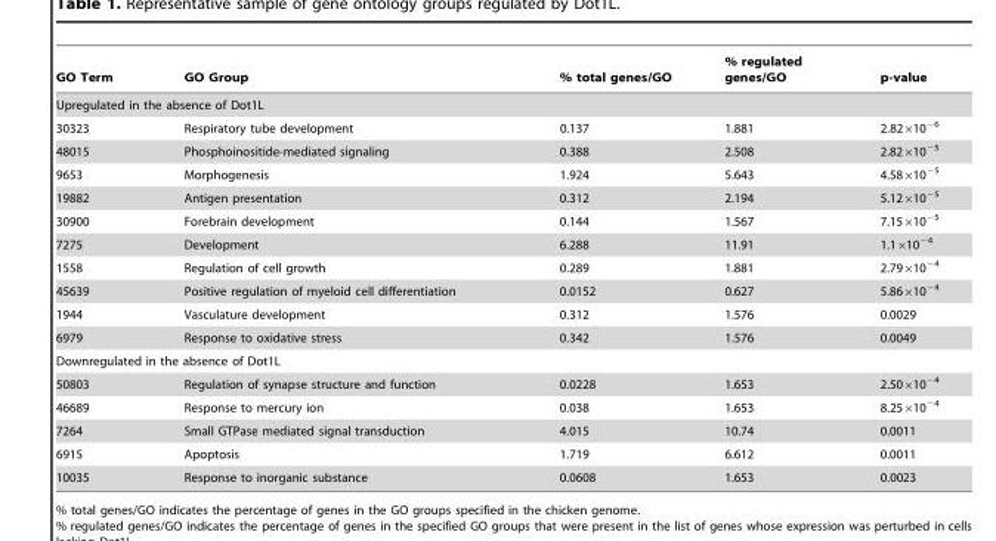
<table><thead><tr><td>GO Term</td><td>GO Group</td><td>% total genes/GO</td><td>% regulated genes/GO</td><td>p-value</td></tr></thead><tbody><tr><td colspan="5">Upregulated in the absence of Dot1L</td></tr><tr><td>30323</td><td>Respiratory tube development</td><td>0.137</td><td>1.881</td><td>2.82×10<sup>−6</sup></td></tr><tr><td>48015</td><td>Phosphoinositide-mediated signaling</td><td>0.388</td><td>2.508</td><td>2.82×10<sup>−5</sup></td></tr><tr><td>9653</td><td>Morphogenesis</td><td>1.924</td><td>5.643</td><td>4.58×10<sup>−5</sup></td></tr><tr><td>19882</td><td>Antigen presentation</td><td>0.312</td><td>2.194</td><td>5.12×10<sup>−5</sup></td></tr><tr><td>30900</td><td>Forebrain development</td><td>0.144</td><td>1.567</td><td>7.15×10<sup>−5</sup></td></tr><tr><td>7275</td><td>Development</td><td>6.288</td><td>11.91</td><td>1.1×10<sup>−4</sup></td></tr><tr><td>1558</td><td>Regulation of cell growth</td><td>0.289</td><td>1.881</td><td>2.79×10<sup>−4</sup></td></tr><tr><td>45639</td><td>Positive regulation of myeloid cell differentiation</td><td>0.0152</td><td>0.627</td><td>5.86×10<sup>−4</sup></td></tr><tr><td>1944</td><td>Vasculature development</td><td>0.312</td><td>1.576</td><td>0.0029</td></tr><tr><td>6979</td><td>Response to oxidative stress</td><td>0.342</td><td>1.576</td><td>0.0049</td></tr><tr><td colspan="5">Downregulated in the absence of Dot1L</td></tr><tr><td>50803</td><td>Regulation of synapse structure and function</td><td>0.0228</td><td>1.653</td><td>2.50×10<sup>−4</sup></td></tr><tr><td>46689</td><td>Response to mercury ion</td><td>0.038</td><td>1.653</td><td>8.25×10<sup>−4</sup></td></tr><tr><td>7264</td><td>Small GTPase mediated signal transduction</td><td>4.015</td><td>10.74</td><td>0.0011</td></tr><tr><td>6915</td><td>Apoptosis</td><td>1.719</td><td>6.612</td><td>0.0011</td></tr><tr><td>10035</td><td>Response to inorganic substance</td><td>0.0608</td><td>1.653</td><td>0.0023</td></tr></tbody></table>